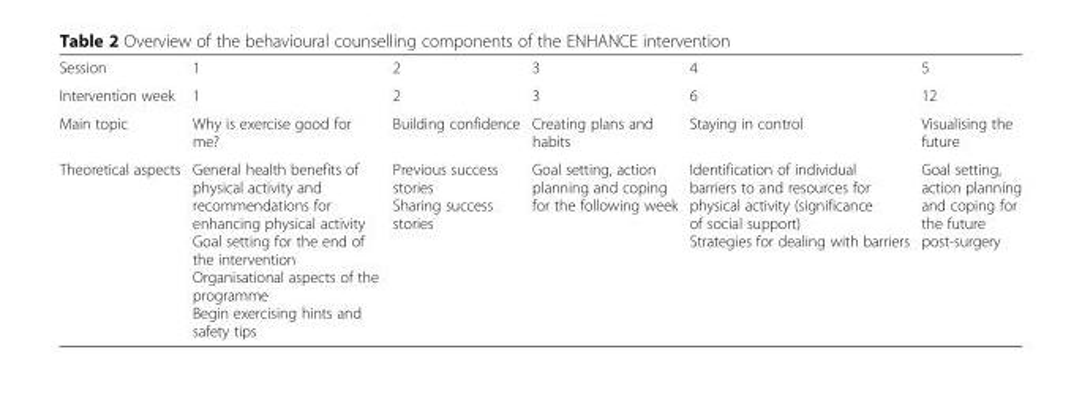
<table><tbody><tr><td>Session</td><td>1</td><td>2</td><td>3</td><td>4</td><td>5</td></tr><tr><td>Intervention week</td><td>1</td><td>2</td><td>3</td><td>6</td><td>12</td></tr><tr><td>Main topic</td><td>Why is exercise good for me?</td><td>Building confidence</td><td>Creating plans and habits</td><td>Staying in control</td><td>Visualising the future</td></tr><tr><td>Theoretical aspects</td><td>General health benefits of physical activity and recommendations for enhancing physical activity Goal setting for the end of the intervention Organisational aspects of the programme Begin exercising hints and safety tips</td><td>Previous success stories Sharing success stories</td><td>Goal setting, action planning and coping for the following week</td><td>Identification of individual barriers to and resources for physical activity (significance of social support) Strategies for dealing with barriers</td><td>Goal setting, action planning and coping for the future post-surgery</td></tr></tbody></table>